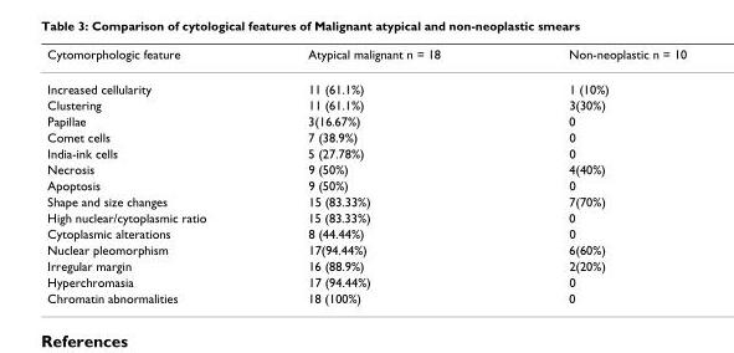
<table><thead><tr><td>Cytomorphologic feature</td><td>Atypical malignant n = 18</td><td>Non-neoplastic n = 10</td></tr></thead><tbody><tr><td>Increased cellularity</td><td>11 (61.1%)</td><td>1 (10%)</td></tr><tr><td>Clustering</td><td>11 (61.1%)</td><td>3(30%)</td></tr><tr><td>Papillae</td><td>3(16.67%)</td><td>0</td></tr><tr><td>Comet cells</td><td>7 (38.9%)</td><td>0</td></tr><tr><td>India-ink cells</td><td>5 (27.78%)</td><td>0</td></tr><tr><td>Necrosis</td><td>9 (50%)</td><td>4(40%)</td></tr><tr><td>Apoptosis</td><td>9 (50%)</td><td>0</td></tr><tr><td>Shape and size changes</td><td>15 (83.33%)</td><td>7(70%)</td></tr><tr><td>High nuclear/cytoplasmic ratio</td><td>15 (83.33%)</td><td>0</td></tr><tr><td>Cytoplasmic alterations</td><td>8 (44.44%)</td><td>0</td></tr><tr><td>Nuclear pleomorphism</td><td>17(94.44%)</td><td>6(60%)</td></tr><tr><td>Irregular margin</td><td>16 (88.9%)</td><td>2(20%)</td></tr><tr><td>Hyperchromasia</td><td>17 (94.44%)</td><td>0</td></tr><tr><td>Chromatin abnormalities</td><td>18 (100%)</td><td>0</td></tr></tbody></table>